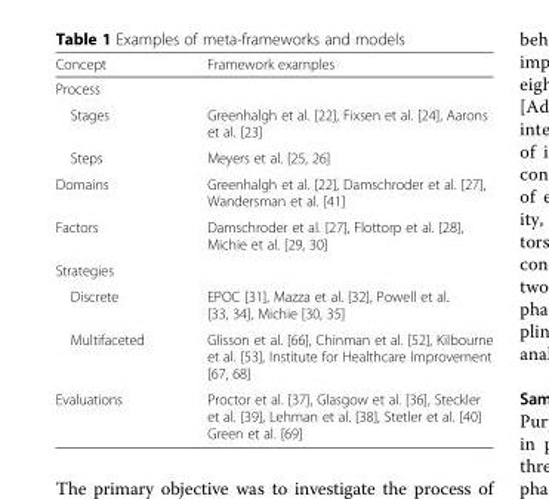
<table><thead><tr><td>Concept</td><td>Framework examples</td></tr></thead><tbody><tr><td colspan="2">Process</td></tr><tr><td>Stages</td><td>Greenhalgh et al. [22], Fixsen et al. [24], Aarons et al. [23]</td></tr><tr><td>Steps</td><td>Meyers et al. [25, 26]</td></tr><tr><td>Domains</td><td>Greenhalgh et al. [22], Damschroder et al. [27], Wandersman et al. [41]</td></tr><tr><td>Factors</td><td>Damschroder et al. [27], Flottorp et al. [28], Michie et al. [29, 30]</td></tr><tr><td colspan="2">Strategies</td></tr><tr><td>Discrete</td><td>EPOC [31], Mazza et al. [32], Powell et al. [33, 34], Michie [30, 35]</td></tr><tr><td>Multifaceted</td><td>Glisson et al. [66], Chinman et al. [52], Kilbourne et al. [53], Institute for Healthcare Improvement [67, 68]</td></tr><tr><td>Evaluations</td><td>Proctor et al. [37], Glasgow et al. [36], Steckler et al. [39], Lehman et al. [38], Stetler et al. [40] Green et al. [69]</td></tr></tbody></table>